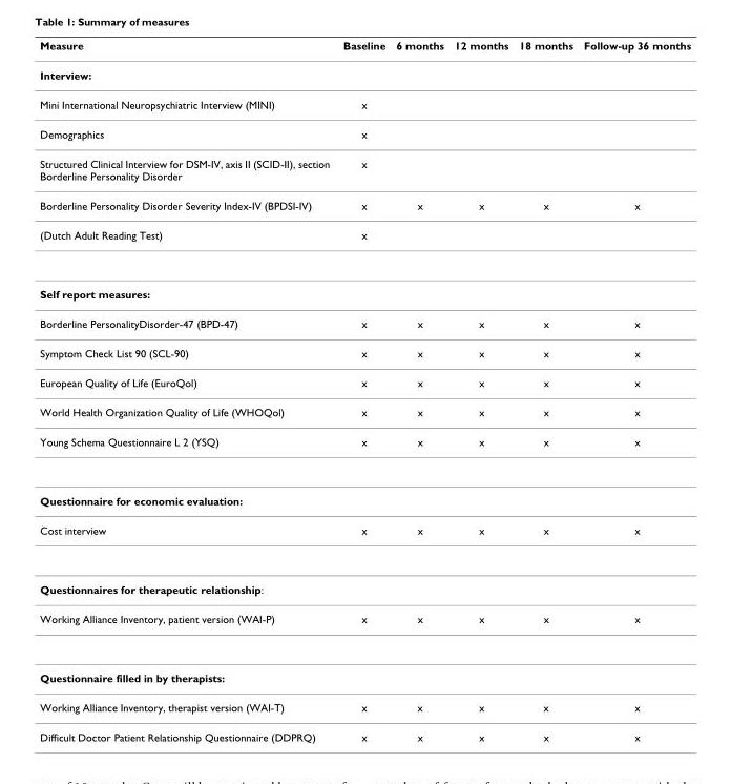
<table><thead><tr><td>Measure</td><td>Baseline</td><td>6 months</td><td>12 months</td><td>18 months</td><td>Follow-up 36 months</td></tr></thead><tbody><tr><td colspan="6">Interview:</td></tr><tr><td>Mini International Neuropsychiatric Interview (MINI)</td><td>x</td><td></td><td></td><td></td><td></td></tr><tr><td>Demographics</td><td>x</td><td></td><td></td><td></td><td></td></tr><tr><td>Structured Clinical Interview for DSM-IV, axis II (SCID-II), section Borderline Personality Disorder</td><td>x</td><td></td><td></td><td></td><td></td></tr><tr><td>Borderline Personality Disorder Severity Index-IV (BPDSI-IV)</td><td>x</td><td>x</td><td>x</td><td>x</td><td>x</td></tr><tr><td>(Dutch Adult Reading Test)</td><td>x</td><td></td><td></td><td></td><td></td></tr><tr><td colspan="6">Self report measures:</td></tr><tr><td>Borderline PersonalityDisorder-47 (BPD-47)</td><td>x</td><td>x</td><td>x</td><td>x</td><td>x</td></tr><tr><td>Symptom Check List 90 (SCL-90)</td><td>x</td><td>x</td><td>x</td><td>x</td><td>x</td></tr><tr><td>European Quality of Life (EuroQol)</td><td>x</td><td>x</td><td>x</td><td>x</td><td>x</td></tr><tr><td>World Health Organization Quality of Life (WHOQol)</td><td>x</td><td>x</td><td>x</td><td>x</td><td>x</td></tr><tr><td>Young Schema Questionnaire L 2 (YSQ)</td><td>x</td><td>x</td><td>x</td><td>x</td><td>x</td></tr><tr><td colspan="6">Questionnaire for economic evaluation:</td></tr><tr><td>Cost interview</td><td>x</td><td>x</td><td>x</td><td>x</td><td>x</td></tr><tr><td colspan="6">Questionnaires for therapeutic relationship:</td></tr><tr><td>Working Alliance Inventory, patient version (WAI-P)</td><td>x</td><td>x</td><td>x</td><td>x</td><td>x</td></tr><tr><td colspan="6">Questionnaire filled in by therapists:</td></tr><tr><td>Working Alliance Inventory, therapist version (WAI-T)</td><td>x</td><td>x</td><td>x</td><td>x</td><td>x</td></tr><tr><td>Difficult Doctor Patient Relationship Questionnaire (DDPRQ)</td><td>x</td><td>x</td><td>x</td><td>x</td><td>x</td></tr></tbody></table>